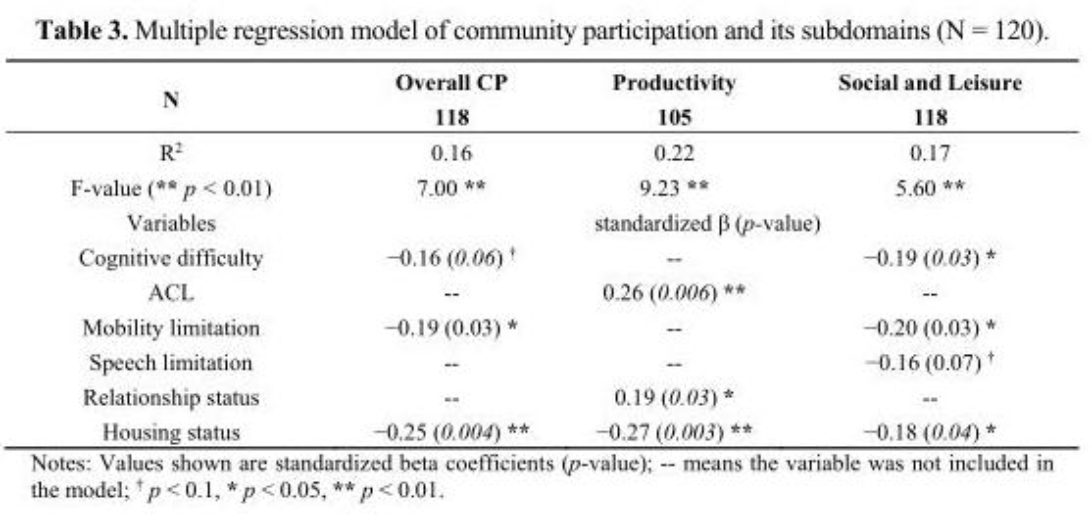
<table><thead><tr><td rowspan="2">N</td><td rowspan="2">Overall CP 118</td><td rowspan="2">Productivity 105</td><td rowspan="2">Social and Leisure 118</td></tr><tr></tr></thead><tbody><tr><td>R<sup>2</sup></td><td>0.16</td><td>0.22</td><td>0.17</td></tr><tr><td>F-value (** p &lt; 0.01)</td><td>7.00 **</td><td>9.23 **</td><td>5.60 **</td></tr><tr><td>Variables</td><td colspan="3">standardized β (p-value)</td></tr><tr><td>Cognitive difficulty</td><td>−0.16 (0.06) <sup>†</sup></td><td>--</td><td>−0.19 (0.03) *</td></tr><tr><td>ACL</td><td>--</td><td>0.26 (0.006) **</td><td>--</td></tr><tr><td>Mobility limitation</td><td>−0.19 (0.03) *</td><td>--</td><td>−0.20 (0.03) *</td></tr><tr><td>Speech limitation</td><td>--</td><td>--</td><td>−0.16 (0.07) <sup>†</sup></td></tr><tr><td>Relationship status</td><td>--</td><td>0.19 (0.03) *</td><td>--</td></tr><tr><td>Housing status</td><td>−0.25 (0.004) **</td><td>−0.27 (0.003) **</td><td>−0.18 (0.04) *</td></tr></tbody></table>